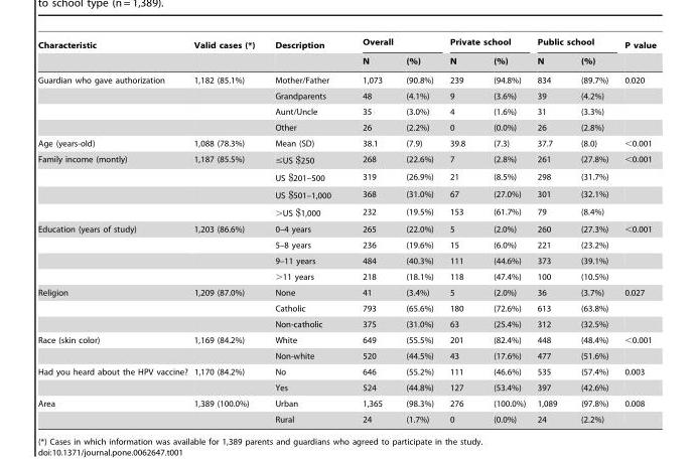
<table><thead><tr><td rowspan="2">Characteristic</td><td rowspan="2">Valid cases (*)</td><td rowspan="2">Description</td><td colspan="2">Overall</td><td colspan="2">Private school</td><td colspan="2">Public school</td><td rowspan="2">P value</td></tr><tr><td>N</td><td>(%)</td><td>N</td><td>(%)</td><td>N</td><td>(%)</td></tr></thead><tbody><tr><td rowspan="4">Guardian who gave authorization</td><td>1,182 (85.1%)</td><td>Mother/Father</td><td>1,073</td><td>(90.8%)</td><td>239</td><td>(94.8%)</td><td>834</td><td>(89.7%)</td><td>0.020</td></tr><tr><td></td><td>Grandparents</td><td>48</td><td>(4.1%)</td><td>9</td><td>(3.6%)</td><td>39</td><td>(4.2%)</td><td></td></tr><tr><td></td><td>Aunt/Uncle</td><td>35</td><td>(3.0%)</td><td>4</td><td>(1.6%)</td><td>31</td><td>(3.3%)</td><td></td></tr><tr><td></td><td>Other</td><td>26</td><td>(2.2%)</td><td>0</td><td>(0.0%)</td><td>26</td><td>(2.8%)</td><td></td></tr><tr><td>Age (years-old)</td><td>1,088 (78.3%)</td><td>Mean (SD)</td><td>38.1</td><td>(7.9)</td><td>39.8</td><td>(7.3)</td><td>37.7</td><td>(8.0)</td><td>&lt;0.001</td></tr><tr><td rowspan="4">Family income (montly)</td><td>1,187 (85.5%)</td><td>≤US $250</td><td>268</td><td>(22.6%)</td><td>7</td><td>(2.8%)</td><td>261</td><td>(27.8%)</td><td>&lt;0.001</td></tr><tr><td></td><td>US $201–500</td><td>319</td><td>(26.9%)</td><td>21</td><td>(8.5%)</td><td>298</td><td>(31.7%)</td><td></td></tr><tr><td></td><td>US $501–1,000</td><td>368</td><td>(31.0%)</td><td>67</td><td>(27.0%)</td><td>301</td><td>(32.1%)</td><td></td></tr><tr><td></td><td>&gt;US $1,000</td><td>232</td><td>(19.5%)</td><td>153</td><td>(61.7%)</td><td>79</td><td>(8.4%)</td><td></td></tr><tr><td rowspan="4">Education (years of study)</td><td>1,203 (86.6%)</td><td>0–4 years</td><td>265</td><td>(22.0%)</td><td>5</td><td>(2.0%)</td><td>260</td><td>(27.3%)</td><td>&lt;0.001</td></tr><tr><td></td><td>5–8 years</td><td>236</td><td>(19.6%)</td><td>15</td><td>(6.0%)</td><td>221</td><td>(23.2%)</td><td></td></tr><tr><td></td><td>9–11 years</td><td>484</td><td>(40.3%)</td><td>111</td><td>(44.6%)</td><td>373</td><td>(39.1%)</td><td></td></tr><tr><td></td><td>&gt;11 years</td><td>218</td><td>(18.1%)</td><td>118</td><td>(47.4%)</td><td>100</td><td>(10.5%)</td><td></td></tr><tr><td rowspan="3">Religion</td><td>1,209 (87.0%)</td><td>None</td><td>41</td><td>(3.4%)</td><td>5</td><td>(2.0%)</td><td>36</td><td>(3.7%)</td><td>0.027</td></tr><tr><td></td><td>Catholic</td><td>793</td><td>(65.6%)</td><td>180</td><td>(72.6%)</td><td>613</td><td>(63.8%)</td><td></td></tr><tr><td></td><td>Non-catholic</td><td>375</td><td>(31.0%)</td><td>63</td><td>(25.4%)</td><td>312</td><td>(32.5%)</td><td></td></tr><tr><td rowspan="2">Race (skin color)</td><td>1,169 (84.2%)</td><td>White</td><td>649</td><td>(55.5%)</td><td>201</td><td>(82.4%)</td><td>448</td><td>(48.4%)</td><td>&lt;0.001</td></tr><tr><td></td><td>Non-white</td><td>520</td><td>(44.5%)</td><td>43</td><td>(17.6%)</td><td>477</td><td>(51.6%)</td><td></td></tr><tr><td rowspan="2">Had you heard about the HPV vaccine?</td><td>1,170 (84.2%)</td><td>No</td><td>646</td><td>(55.2%)</td><td>111</td><td>(46.6%)</td><td>535</td><td>(57.4%)</td><td>0.003</td></tr><tr><td></td><td>Yes</td><td>524</td><td>(44.8%)</td><td>127</td><td>(53.4%)</td><td>397</td><td>(42.6%)</td><td></td></tr><tr><td rowspan="2">Area</td><td>1,389 (100.0%)</td><td>Urban</td><td>1,365</td><td>(98.3%)</td><td>276</td><td>(100.0%)</td><td>1,089</td><td>(97.8%)</td><td>0.008</td></tr><tr><td></td><td>Rural</td><td>24</td><td>(1.7%)</td><td>0</td><td>(0.0%)</td><td>24</td><td>(2.2%)</td><td></td></tr></tbody></table>